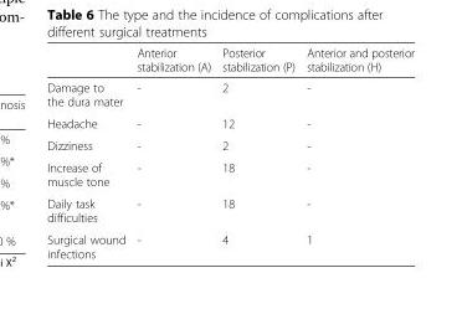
<table><thead><tr><td></td><td>Anterior stabilization (A)</td><td>Posterior stabilization (P)</td><td>Anterior and posterior stabilization (H)</td></tr></thead><tbody><tr><td>Damage to the dura mater</td><td>-</td><td>2</td><td>-</td></tr><tr><td>Headache</td><td>-</td><td>12</td><td>-</td></tr><tr><td>Dizziness</td><td>-</td><td>2</td><td>-</td></tr><tr><td>Increase of muscle tone</td><td>-</td><td>18</td><td>-</td></tr><tr><td>Daily task difficulties</td><td>-</td><td>18</td><td>-</td></tr><tr><td>Surgical wound infections</td><td>-</td><td>4</td><td>1</td></tr></tbody></table>